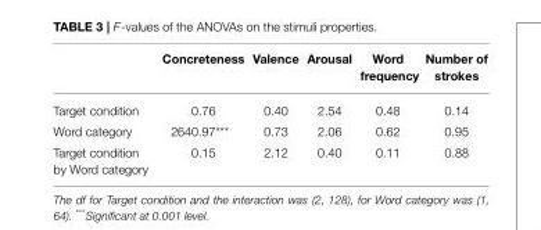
<table><thead><tr><td></td><td>Concreteness</td><td>Valence</td><td>Arousal</td><td>Word frequency</td><td>Number of strokes</td></tr></thead><tbody><tr><td>Target condition</td><td>0.76</td><td>0.40</td><td>2.54</td><td>0.48</td><td>0.14</td></tr><tr><td>Word category</td><td>2640.97***</td><td>0.73</td><td>2.06</td><td>0.62</td><td>0.95</td></tr><tr><td>Target condition by Word category</td><td>0.15</td><td>2.12</td><td>0.40</td><td>0.11</td><td>0.88</td></tr></tbody></table>